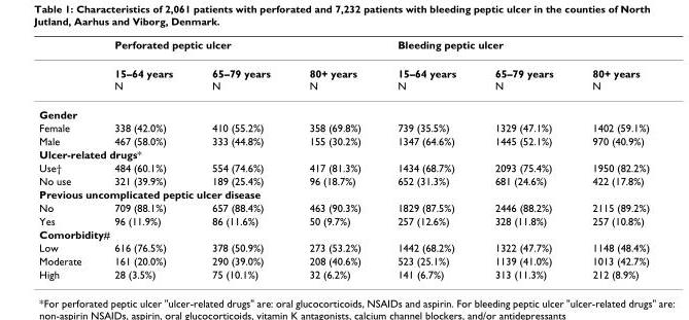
<table><thead><tr><td rowspan="2"></td><td colspan="3">Perforated peptic ulcer</td><td colspan="3">Bleeding peptic ulcer</td></tr><tr><td>15–64 years N</td><td>65–79 years N</td><td>80+ years N</td><td>15–64 years N</td><td>65–79 years N</td><td>80+ years N</td></tr></thead><tbody><tr><td colspan="7">Gender</td></tr><tr><td>Female</td><td>338 (42.0%)</td><td>410 (55.2%)</td><td>358 (69.8%)</td><td>739 (35.5%)</td><td>1329 (47.1%)</td><td>1402 (59.1%)</td></tr><tr><td>Male</td><td>467 (58.0%)</td><td>333 (44.8%)</td><td>155 (30.2%)</td><td>1347 (64.6%)</td><td>1445 (52.1%)</td><td>970 (40.9%)</td></tr><tr><td colspan="7">Ulcer-related drugs*</td></tr><tr><td>Use†</td><td>484 (60.1%)</td><td>554 (74.6%)</td><td>417 (81.3%)</td><td>1434 (68.7%)</td><td>2093 (75.4%)</td><td>1950 (82.2%)</td></tr><tr><td>No use</td><td>321 (39.9%)</td><td>189 (25.4%)</td><td>96 (18.7%)</td><td>652 (31.3%)</td><td>681 (24.6%)</td><td>422 (17.8%)</td></tr><tr><td colspan="7">Previous uncomplicated peptic ulcer disease</td></tr><tr><td>No</td><td>709 (88.1%)</td><td>657 (88.4%)</td><td>463 (90.3%)</td><td>1829 (87.5%)</td><td>2446 (88.2%)</td><td>2115 (89.2%)</td></tr><tr><td>Yes</td><td>96 (11.9%)</td><td>86 (11.6%)</td><td>50 (9.7%)</td><td>257 (12.6%)</td><td>328 (11.8%)</td><td>257 (10.8%)</td></tr><tr><td colspan="7">Comorbidity#</td></tr><tr><td>Low</td><td>616 (76.5%)</td><td>378 (50.9%)</td><td>273 (53.2%)</td><td>1442 (68.2%)</td><td>1322 (47.7%)</td><td>1148 (48.4%)</td></tr><tr><td>Moderate</td><td>161 (20.0%)</td><td>290 (39.0%)</td><td>208 (40.6%)</td><td>523 (25.1%)</td><td>1139 (41.0%)</td><td>1013 (42.7%)</td></tr><tr><td>High</td><td>28 (3.5%)</td><td>75 (10.1%)</td><td>32 (6.2%)</td><td>141 (6.7%)</td><td>313 (11.3%)</td><td>212 (8.9%)</td></tr></tbody></table>